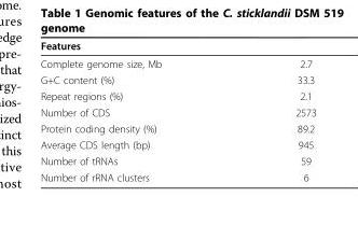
<table><thead><tr><td>Features</td><td></td></tr></thead><tbody><tr><td>Complete genome size, Mb</td><td>2.7</td></tr><tr><td>G+C content (%)</td><td>33.3</td></tr><tr><td>Repeat regions (%)</td><td>2.1</td></tr><tr><td>Number of CDS</td><td>2573</td></tr><tr><td>Protein coding density (%)</td><td>89.2</td></tr><tr><td>Average CDS length (bp)</td><td>945</td></tr><tr><td>Number of tRNAs</td><td>59</td></tr><tr><td>Number of rRNA clusters</td><td>6</td></tr></tbody></table>